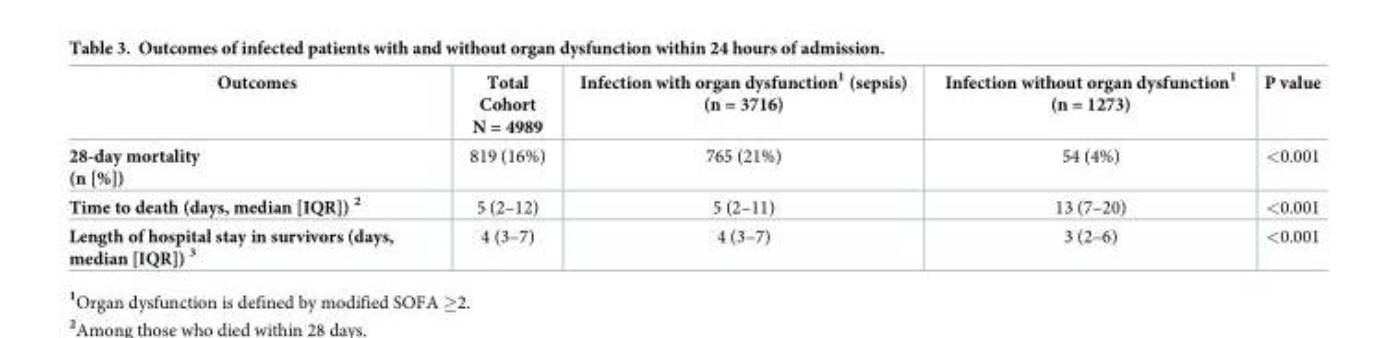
<table><thead><tr><td>Outcomes</td><td>Total Cohort N = 4989</td><td>Infection with organ dysfunction<sup>1</sup> (sepsis) (n = 3716)</td><td>Infection without organ dysfunction<sup>1</sup> (n = 1273)</td><td>P value</td></tr></thead><tbody><tr><td>28-day mortality (n [%])</td><td>819 (16%)</td><td>765 (21%)</td><td>54 (4%)</td><td>&lt;0.001</td></tr><tr><td>Time to death (days, median [IQR]) <sup>2</sup></td><td>5 (2–12)</td><td>5 (2–11)</td><td>13 (7–20)</td><td>&lt;0.001</td></tr><tr><td>Length of hospital stay in survivors (days, median [IQR]) <sup>3</sup></td><td>4 (3–7)</td><td>4 (3–7)</td><td>3 (2–6)</td><td>&lt;0.001</td></tr></tbody></table>